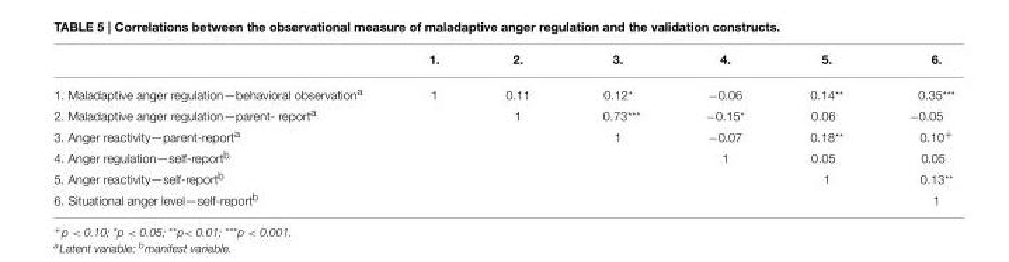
<table><thead><tr><td></td><td>1.</td><td>2.</td><td>3.</td><td>4.</td><td>5.</td><td>6.</td></tr></thead><tbody><tr><td>1. Maladaptive anger regulation—behavioral observation<sup>a</sup></td><td>1</td><td>0.11</td><td>0.12*</td><td>−0.06</td><td>0.14**</td><td>0.35***</td></tr><tr><td>2. Maladaptive anger regulation—parent- report<sup>a</sup></td><td></td><td>1</td><td>0.73***</td><td>−0.15*</td><td>0.06</td><td>−0.05</td></tr><tr><td>3. Anger reactivity—parent-report<sup>a</sup></td><td></td><td></td><td>1</td><td>−0.07</td><td>0.18**</td><td>0.10<sup>+</sup></td></tr><tr><td>4. Anger regulation—self-report<sup>b</sup></td><td></td><td></td><td></td><td>1</td><td>0.05</td><td>0.05</td></tr><tr><td>5. Anger reactivity—self-report<sup>b</sup></td><td></td><td></td><td></td><td></td><td>1</td><td>0.13**</td></tr><tr><td>6. Situational anger level—self-report<sup>b</sup></td><td></td><td></td><td></td><td></td><td></td><td>1</td></tr></tbody></table>